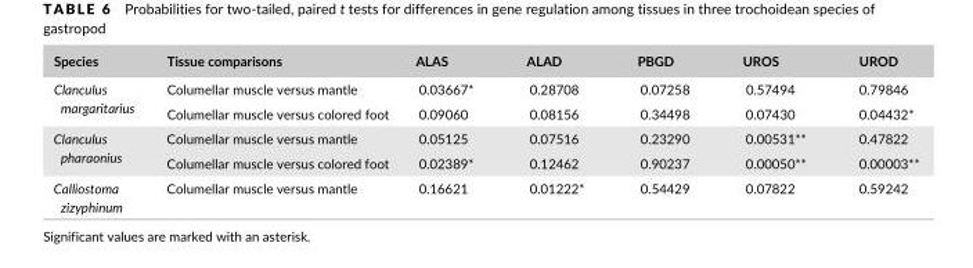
<table><thead><tr><td>Species</td><td>Tissue comparisons</td><td>ALAS</td><td>ALAD</td><td>PBGD</td><td>UROS</td><td>UROD</td></tr></thead><tbody><tr><td rowspan="2">Clanculus margaritarius</td><td>Columellar muscle versus mantle</td><td>0.03667*</td><td>0.28708</td><td>0.07258</td><td>0.57494</td><td>0.79846</td></tr><tr><td>Columellar muscle versus colored foot</td><td>0.09060</td><td>0.08156</td><td>0.34498</td><td>0.07430</td><td>0.04432*</td></tr><tr><td rowspan="2">Clanculus pharaonius</td><td>Columellar muscle versus mantle</td><td>0.05125</td><td>0.07516</td><td>0.23290</td><td>0.00531**</td><td>0.47822</td></tr><tr><td>Columellar muscle versus colored foot</td><td>0.02389*</td><td>0.12462</td><td>0.90237</td><td>0.00050**</td><td>0.00003**</td></tr><tr><td>Calliostoma zizyphinum</td><td>Columellar muscle versus mantle</td><td>0.16621</td><td>0.01222*</td><td>0.54429</td><td>0.07822</td><td>0.59242</td></tr></tbody></table>